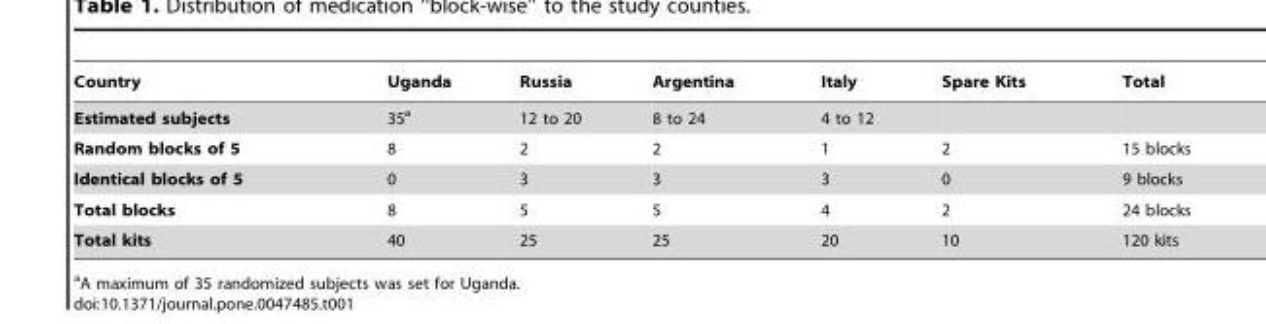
<table><thead><tr><td>Country</td><td>Uganda</td><td>Russia</td><td>Argentina</td><td>Italy</td><td>Spare Kits</td><td>Total</td></tr></thead><tbody><tr><td>Estimated subjects</td><td>35<sup>a</sup></td><td>12 to 20</td><td>8 to 24</td><td>4 to 12</td><td></td><td></td></tr><tr><td>Random blocks of 5</td><td>8</td><td>2</td><td>2</td><td>1</td><td>2</td><td>15 blocks</td></tr><tr><td>Identical blocks of 5</td><td>0</td><td>3</td><td>3</td><td>3</td><td>0</td><td>9 blocks</td></tr><tr><td>Total blocks</td><td>8</td><td>5</td><td>5</td><td>4</td><td>2</td><td>24 blocks</td></tr><tr><td>Total kits</td><td>40</td><td>25</td><td>25</td><td>20</td><td>10</td><td>120 kits</td></tr></tbody></table>